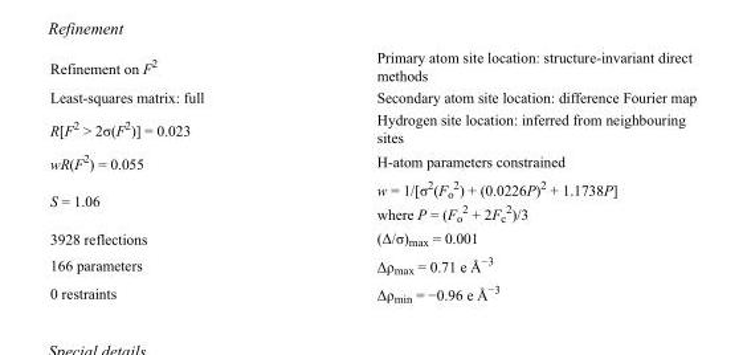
<table><tbody><tr><td>Refinement on F<sup>2</sup></td><td>Primary atom site location: structure-invariant direct methods</td></tr><tr><td>Least-squares matrix: full</td><td>Secondary atom site location: difference Fourier map</td></tr><tr><td>R[F<sup>2</sup> &gt; 2σ(F<sup>2</sup>)] = 0.023</td><td>Hydrogen site location: inferred from neighbouring sites</td></tr><tr><td>wR(F<sup>2</sup>) = 0.055</td><td>H-atom parameters constrained</td></tr><tr><td>S = 1.06</td><td>w = 1/[σ<sup>2</sup>(F<sub>o</sub> <sup>2</sup>) + (0.0226P)<sup>2</sup> + 1.1738P] where P = (F<sub>o</sub> <sup>2</sup> + 2F<sub>c</sub> <sup>2</sup>)/3</td></tr><tr><td>3928 reflections</td><td>(Δ/σ)<sub>max</sub> = 0.001</td></tr><tr><td>166 parameters</td><td>Δρ<sub>max</sub> = 0.71 e Å<sup>−3</sup></td></tr><tr><td>0 restraints</td><td>Δρ<sub>min</sub> = −0.96 e Å<sup>−3</sup></td></tr></tbody></table>